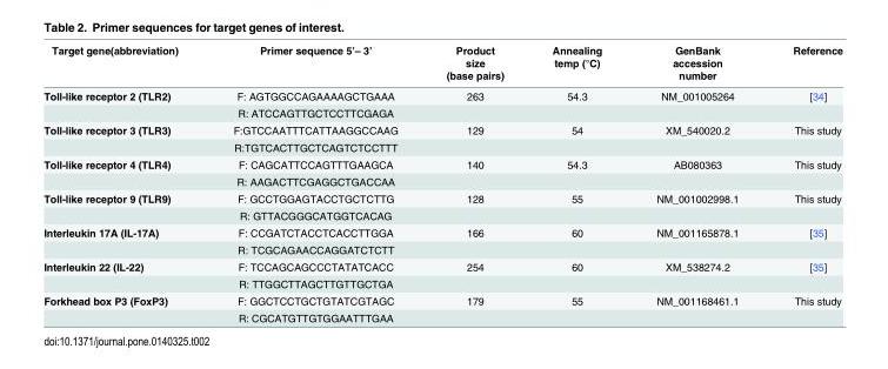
<table><thead><tr><td>Target gene(abbreviation)</td><td>Primer sequence 5’– 3’</td><td>Product size (base pairs)</td><td>Annealing temp (°C)</td><td>GenBank accession number</td><td>Reference</td></tr></thead><tbody><tr><td rowspan="2">Toll-like receptor 2 (TLR2)</td><td>F: AGTGGCCAGAAAAGCTGAAA</td><td>263</td><td>54.3</td><td>NM_001005264</td><td>[34]</td></tr><tr><td>R: ATCCAGTTGCTCCTTCGAGA</td><td></td><td></td><td></td><td></td></tr><tr><td rowspan="2">Toll-like receptor 3 (TLR3)</td><td>F:GTCCAATTTCATTAAGGCCAAG</td><td>129</td><td>54</td><td>XM_540020.2</td><td>This study</td></tr><tr><td>R:TGTCACTTGCTCAGTCTCCTTT</td><td></td><td></td><td></td><td></td></tr><tr><td rowspan="2">Toll-like receptor 4 (TLR4)</td><td>F: CAGCATTCCAGTTTGAAGCA</td><td>140</td><td>54.3</td><td>AB080363</td><td>This study</td></tr><tr><td>R: AAGACTTCGAGGCTGACCAA</td><td></td><td></td><td></td><td></td></tr><tr><td rowspan="2">Toll-like receptor 9 (TLR9)</td><td>F: GCCTGGAGTACCTGCTCTTG</td><td>128</td><td>55</td><td>NM_001002998.1</td><td>This study</td></tr><tr><td>R: GTTACGGGCATGGTCACAG</td><td></td><td></td><td></td><td></td></tr><tr><td rowspan="2">Interleukin 17A (IL-17A)</td><td>F: CCGATCTACCTCACCTTGGA</td><td>166</td><td>60</td><td>NM_001165878.1</td><td>[35]</td></tr><tr><td>R: TCGCAGAACCAGGATCTCTT</td><td></td><td></td><td></td><td></td></tr><tr><td rowspan="2">Interleukin 22 (IL-22)</td><td>F: TCCAGCAGCCCTATATCACC</td><td>254</td><td>60</td><td>XM_538274.2</td><td>[35]</td></tr><tr><td>R: TTGGCTTAGCTTGTTGCTGA</td><td></td><td></td><td></td><td></td></tr><tr><td rowspan="2">Forkhead box P3 (FoxP3)</td><td>F: GGCTCCTGCTGTATCGTAGC</td><td>179</td><td>55</td><td>NM_001168461.1</td><td>This study</td></tr><tr><td>R: CGCATGTTGTGGAATTTGAA</td><td></td><td></td><td></td><td></td></tr></tbody></table>